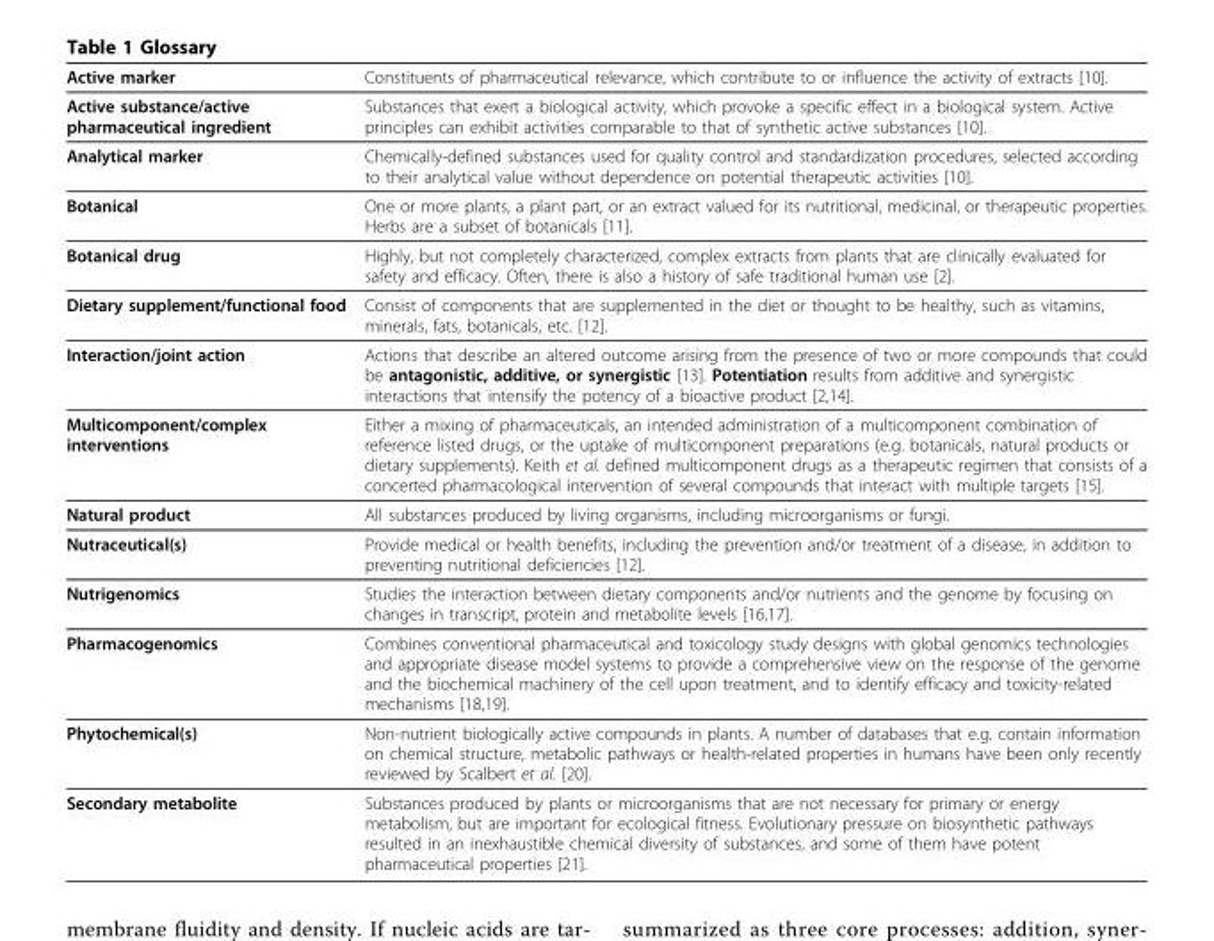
<table><thead><tr><td>Active marker</td><td>Constituents of pharmaceutical relevance, which contribute to or influence the activity of extracts [10].</td></tr></thead><tbody><tr><td>Active substance/active pharmaceutical ingredient</td><td>Substances that exert a biological activity, which provoke a specific effect in a biological system. Active principles can exhibit activities comparable to that of synthetic active substances [10].</td></tr><tr><td>Analytical marker</td><td>Chemically-defined substances used for quality control and standardization procedures, selected according to their analytical value without dependence on potential therapeutic activities [10].</td></tr><tr><td>Botanical</td><td>One or more plants, a plant part, or an extract valued for its nutritional, medicinal, or therapeutic properties. Herbs are a subset of botanicals [11].</td></tr><tr><td>Botanical drug</td><td>Highly, but not completely characterized, complex extracts from plants that are clinically evaluated for safety and efficacy. Often, there is also a history of safe traditional human use [2].</td></tr><tr><td>Dietary supplement/functional food</td><td>Consist of components that are supplemented in the diet or thought to be healthy, such as vitamins, minerals, fats, botanicals, etc. [12].</td></tr><tr><td>Interaction/joint action</td><td>Actions that describe an altered outcome arising from the presence of two or more compounds that could be antagonistic, additive, or synergistic [13]. Potentiation results from additive and synergistic interactions that intensify the potency of a bioactive product [2,14].</td></tr><tr><td>Multicomponent/complex interventions</td><td>Either a mixing of pharmaceuticals, an intended administration of a multicomponent combination of reference listed drugs, or the uptake of multicomponent preparations (e.g. botanicals, natural products or dietary supplements). Keith et al. defined multicomponent drugs as a therapeutic regimen that consists of a concerted pharmacological intervention of several compounds that interact with multiple targets [15].</td></tr><tr><td>Natural product</td><td>All substances produced by living organisms, including microorganisms or fungi.</td></tr><tr><td>Nutraceutical(s)</td><td>Provide medical or health benefits, including the prevention and/or treatment of a disease, in addition to preventing nutritional deficiencies [12].</td></tr><tr><td>Nutrigenomics</td><td>Studies the interaction between dietary components and/or nutrients and the genome by focusing on changes in transcript, protein and metabolite levels [16,17].</td></tr><tr><td>Pharmacogenomics</td><td>Combines conventional pharmaceutical and toxicology study designs with global genomics technologies and appropriate disease model systems to provide a comprehensive view on the response of the genome and the biochemical machinery of the cell upon treatment, and to identify efficacy and toxicity-related mechanisms [18,19].</td></tr><tr><td>Phytochemical(s)</td><td>Non-nutrient biologically active compounds in plants. A number of databases that e.g. contain information on chemical structure, metabolic pathways or health-related properties in humans have been only recently reviewed by Scalbert et al. [20].</td></tr><tr><td>Secondary metabolite</td><td>Substances produced by plants or microorganisms that are not necessary for primary or energy metabolism, but are important for ecological fitness. Evolutionary pressure on biosynthetic pathways resulted in an inexhaustible chemical diversity of substances, and some of them have potent pharmaceutical properties [21].</td></tr></tbody></table>